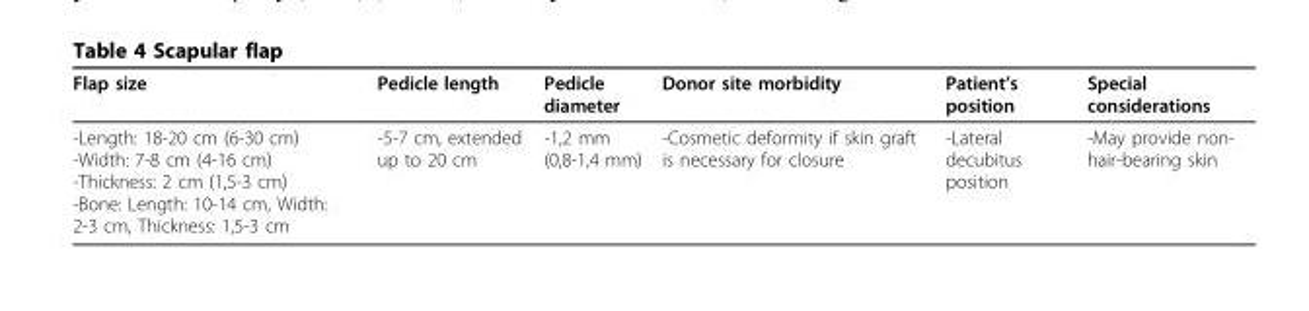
<table><thead><tr><td>Flap size</td><td>Pedicle length</td><td>Pedicle diameter</td><td>Donor site morbidity</td><td>Patient’s position</td><td>Special considerations</td></tr></thead><tbody><tr><td>-Length: 18-20 cm (6-30 cm) -Width: 7-8 cm (4-16 cm) -Thickness: 2 cm (1,5-3 cm) -Bone: Length: 10-14 cm, Width: 2-3 cm, Thickness: 1,5-3 cm</td><td>-5-7 cm, extended up to 20 cm</td><td>-1,2 mm (0,8-1,4 mm)</td><td>-Cosmetic deformity if skin graft is necessary for closure</td><td>-Lateral decubitus position</td><td>-May provide non- hair-bearing skin</td></tr></tbody></table>